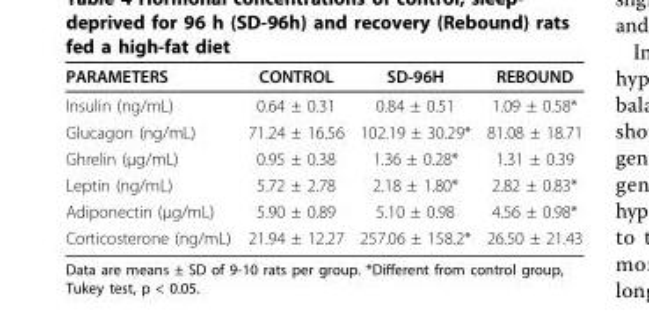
<table><thead><tr><td>PARAMETERS</td><td>CONTROL</td><td>SD-96H</td><td>REBOUND</td></tr></thead><tbody><tr><td>Insulin (ng/mL)</td><td>0.64 ± 0.31</td><td>0.84 ± 0.51</td><td>1.09 ± 0.58*</td></tr><tr><td>Glucagon (ng/mL)</td><td>71.24 ± 16.56</td><td>102.19 ± 30.29*</td><td>81.08 ± 18.71</td></tr><tr><td>Ghrelin (μg/mL)</td><td>0.95 ± 0.38</td><td>1.36 ± 0.28*</td><td>1.31 ± 0.39</td></tr><tr><td>Leptin (ng/mL)</td><td>5.72 ± 2.78</td><td>2.18 ± 1.80*</td><td>2.82 ± 0.83*</td></tr><tr><td>Adiponectin (μg/mL)</td><td>5.90 ± 0.89</td><td>5.10 ± 0.98</td><td>4.56 ± 0.98*</td></tr><tr><td>Corticosterone (ng/mL)</td><td>21.94 ± 12.27</td><td>257.06 ± 158.2*</td><td>26.50 ± 21.43</td></tr></tbody></table>